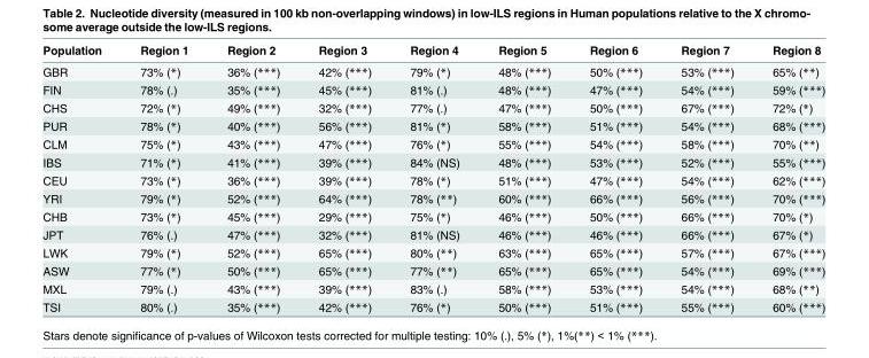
<table><thead><tr><td>Population</td><td>Region 1</td><td>Region 2</td><td>Region 3</td><td>Region 4</td><td>Region 5</td><td>Region 6</td><td>Region 7</td><td>Region 8</td></tr></thead><tbody><tr><td>GBR</td><td>73% (*)</td><td>36% (***)</td><td>42% (***)</td><td>79% (*)</td><td>48% (***)</td><td>50% (***)</td><td>53% (***)</td><td>65% (**)</td></tr><tr><td>FIN</td><td>78% (.)</td><td>35% (***)</td><td>45% (***)</td><td>81% (.)</td><td>48% (***)</td><td>47% (***)</td><td>54% (***)</td><td>59% (***)</td></tr><tr><td>CHS</td><td>72% (*)</td><td>49% (***)</td><td>32% (***)</td><td>77% (.)</td><td>47% (***)</td><td>50% (***)</td><td>67% (***)</td><td>72% (*)</td></tr><tr><td>PUR</td><td>78% (*)</td><td>40% (***)</td><td>56% (***)</td><td>81% (*)</td><td>58% (***)</td><td>51% (***)</td><td>54% (***)</td><td>68% (***)</td></tr><tr><td>CLM</td><td>75% (*)</td><td>43% (***)</td><td>47% (***)</td><td>76% (*)</td><td>55% (***)</td><td>54% (***)</td><td>58% (***)</td><td>70% (**)</td></tr><tr><td>IBS</td><td>71% (*)</td><td>41% (***)</td><td>39% (***)</td><td>84% (NS)</td><td>48% (***)</td><td>53% (***)</td><td>52% (***)</td><td>55% (***)</td></tr><tr><td>CEU</td><td>73% (*)</td><td>36% (***)</td><td>39% (***)</td><td>78% (*)</td><td>51% (***)</td><td>47% (***)</td><td>54% (***)</td><td>62% (***)</td></tr><tr><td>YRI</td><td>79% (*)</td><td>52% (***)</td><td>64% (***)</td><td>78% (**)</td><td>60% (***)</td><td>66% (***)</td><td>56% (***)</td><td>70% (***)</td></tr><tr><td>CHB</td><td>73% (*)</td><td>45% (***)</td><td>29% (***)</td><td>75% (*)</td><td>46% (***)</td><td>50% (***)</td><td>66% (***)</td><td>70% (*)</td></tr><tr><td>JPT</td><td>76% (.)</td><td>47% (***)</td><td>32% (***)</td><td>81% (NS)</td><td>46% (***)</td><td>46% (***)</td><td>66% (***)</td><td>67% (*)</td></tr><tr><td>LWK</td><td>79% (*)</td><td>52% (***)</td><td>65% (***)</td><td>80% (**)</td><td>63% (***)</td><td>65% (***)</td><td>57% (***)</td><td>67% (***)</td></tr><tr><td>ASW</td><td>77% (*)</td><td>50% (***)</td><td>65% (***)</td><td>77% (**)</td><td>65% (***)</td><td>65% (***)</td><td>54% (***)</td><td>69% (***)</td></tr><tr><td>MXL</td><td>79% (.)</td><td>43% (***)</td><td>39% (***)</td><td>83% (.)</td><td>58% (***)</td><td>53% (***)</td><td>54% (***)</td><td>68% (**)</td></tr><tr><td>TSI</td><td>80% (.)</td><td>35% (***)</td><td>42% (***)</td><td>76% (*)</td><td>50% (***)</td><td>51% (***)</td><td>55% (***)</td><td>60% (***)</td></tr></tbody></table>